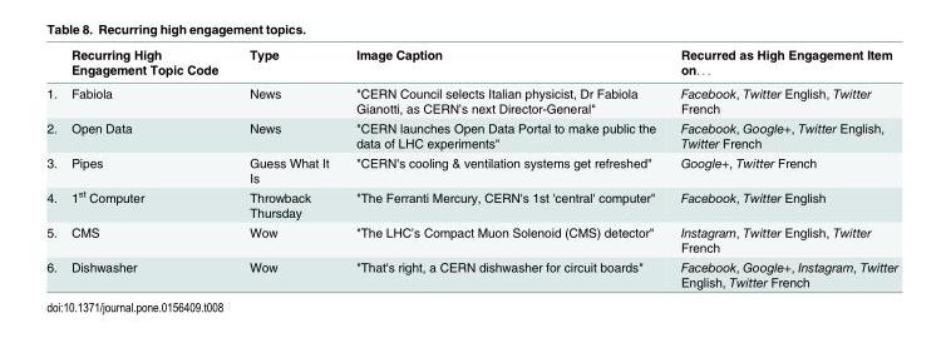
<table><thead><tr><td></td><td>Recurring High Engagement Topic Code</td><td>Type</td><td>Image Caption</td><td>Recurred as High Engagement Item on. . .</td></tr></thead><tbody><tr><td>1.</td><td>Fabiola</td><td>News</td><td>&quot;CERN Council selects Italian physicist, Dr Fabiola Gianotti, as CERN’s next Director-General&quot;</td><td>Facebook, Twitter English, Twitter French</td></tr><tr><td>2.</td><td>Open Data</td><td>News</td><td>&quot;CERN launches Open Data Portal to make public the data of LHC experiments&quot;</td><td>Facebook, Google+, Twitter English, Twitter French</td></tr><tr><td>3.</td><td>Pipes</td><td>Guess What It Is</td><td>&quot;CERN&#x27;s cooling &amp; ventilation systems get refreshed&quot;</td><td>Google+, Twitter French</td></tr><tr><td>4.</td><td>1<sup>st</sup> Computer</td><td>Throwback Thursday</td><td>&quot;The Ferranti Mercury, CERN&#x27;s 1st &#x27;central&#x27; computer&quot;</td><td>Facebook, Twitter English</td></tr><tr><td>5.</td><td>CMS</td><td>Wow</td><td>&quot;The LHC’s Compact Muon Solenoid (CMS) detector&quot;</td><td>Instagram, Twitter English, Twitter French</td></tr><tr><td>6.</td><td>Dishwasher</td><td>Wow</td><td>&quot;That&#x27;s right, a CERN dishwasher for circuit boards&quot;</td><td>Facebook, Google+, Instagram, Twitter English, Twitter French</td></tr></tbody></table>